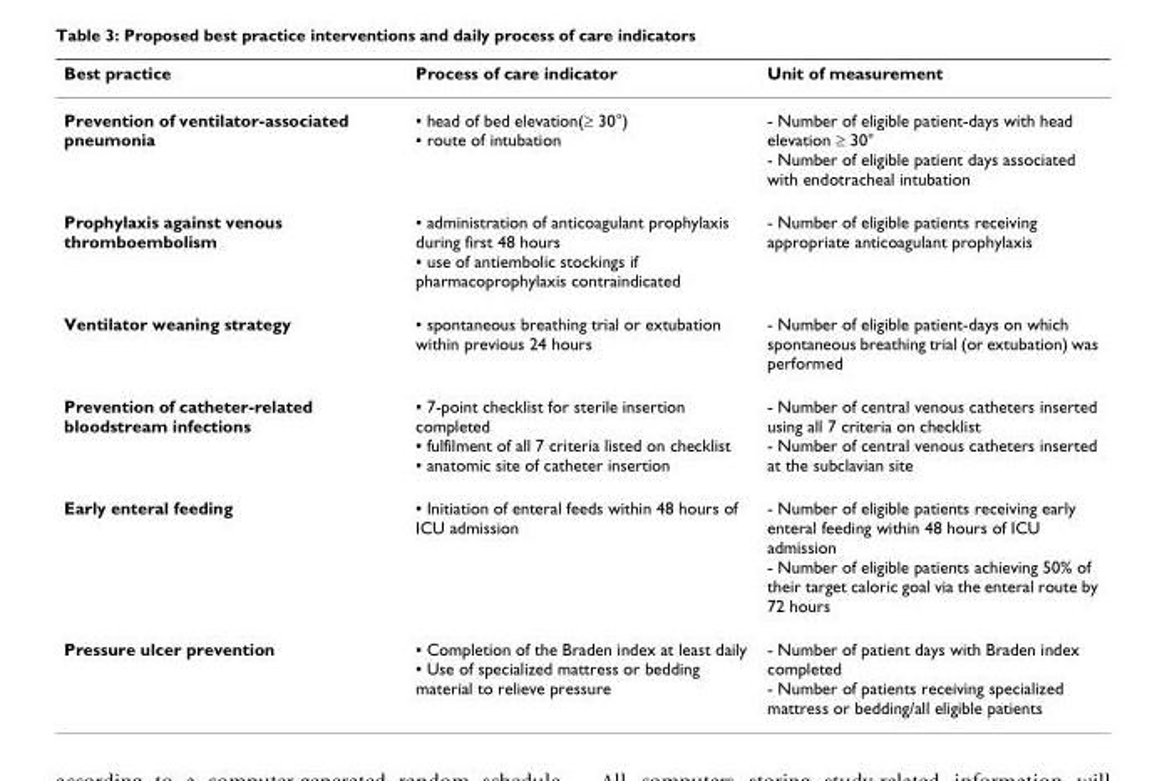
<table><thead><tr><td>Best practice</td><td>Process of care indicator</td><td>Unit of measurement</td></tr></thead><tbody><tr><td>Prevention of ventilator-associated pneumonia</td><td>▪ head of bed elevation(≥ 30°) ▪ route of intubation</td><td>- Number of eligible patient-days with head elevation ≥ 30° - Number of eligible patient days associated with endotracheal intubation</td></tr><tr><td>Prophylaxis against venous thromboembolism</td><td>▪ administration of anticoagulant prophylaxis during first 48 hours ▪ use of antiembolic stockings if pharmacoprophylaxis contraindicated</td><td>- Number of eligible patients receiving appropriate anticoagulant prophylaxis</td></tr><tr><td>Ventilator weaning strategy</td><td>▪ spontaneous breathing trial or extubation within previous 24 hours</td><td>- Number of eligible patient-days on which spontaneous breathing trial (or extubation) was performed</td></tr><tr><td>Prevention of catheter-related bloodstream infections</td><td>▪ 7-point checklist for sterile insertion completed ▪ fulfilment of all 7 criteria listed on checklist ▪ anatomic site of catheter insertion</td><td>- Number of central venous catheters inserted using all 7 criteria on checklist - Number of central venous catheters inserted at the subclavian site</td></tr><tr><td>Early enteral feeding</td><td>▪ Initiation of enteral feeds within 48 hours of ICU admission</td><td>- Number of eligible patients receiving early enteral feeding within 48 hours of ICU admission - Number of eligible patients achieving 50% of their target caloric goal via the enteral route by 72 hours</td></tr><tr><td>Pressure ulcer prevention</td><td>▪ Completion of the Braden index at least daily ▪ Use of specialized mattress or bedding material to relieve pressure</td><td>- Number of patient days with Braden index completed - Number of patients receiving specialized mattress or bedding/all eligible patients</td></tr></tbody></table>